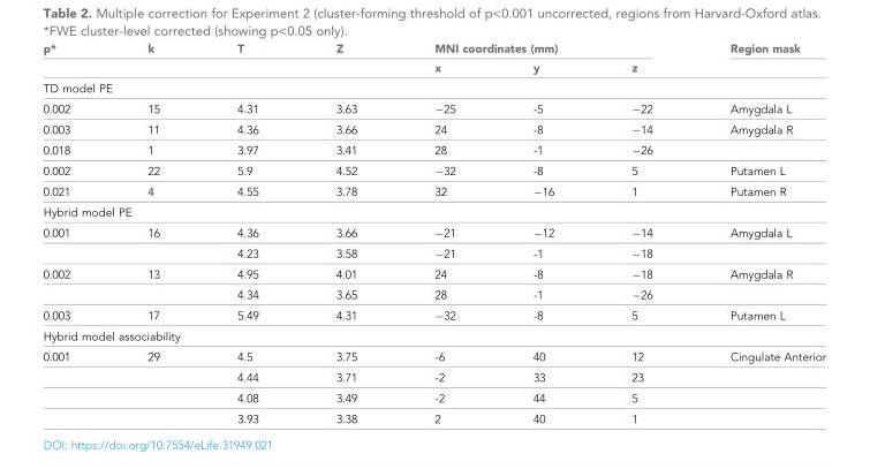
<table><thead><tr><td rowspan="2">p*</td><td rowspan="2">k</td><td rowspan="2">T</td><td rowspan="2">Z</td><td colspan="3">MNI coordinates (mm)</td><td rowspan="2">Region mask</td></tr><tr><td>x</td><td>y</td><td>z</td></tr></thead><tbody><tr><td colspan="8">TD model PE</td></tr><tr><td>0.002</td><td>15</td><td>4.31</td><td>3.63</td><td>−25</td><td>-5</td><td>−22</td><td>Amygdala L</td></tr><tr><td>0.003</td><td>11</td><td>4.36</td><td>3.66</td><td>24</td><td>-8</td><td>−14</td><td>Amygdala R</td></tr><tr><td>0.018</td><td>1</td><td>3.97</td><td>3.41</td><td>28</td><td>-1</td><td>−26</td><td></td></tr><tr><td>0.002</td><td>22</td><td>5.9</td><td>4.52</td><td>−32</td><td>-8</td><td>5</td><td>Putamen L</td></tr><tr><td>0.021</td><td>4</td><td>4.55</td><td>3.78</td><td>32</td><td>−16</td><td>1</td><td>Putamen R</td></tr><tr><td colspan="8">Hybrid model PE</td></tr><tr><td rowspan="2">0.001</td><td>16</td><td>4.36</td><td>3.66</td><td>−21</td><td>−12</td><td>−14</td><td>Amygdala L</td></tr><tr><td></td><td>4.23</td><td>3.58</td><td>−21</td><td>-1</td><td>−18</td><td></td></tr><tr><td rowspan="2">0.002</td><td>13</td><td>4.95</td><td>4.01</td><td>24</td><td>-8</td><td>−18</td><td>Amygdala R</td></tr><tr><td></td><td>4.34</td><td>3.65</td><td>28</td><td>-1</td><td>−26</td><td></td></tr><tr><td>0.003</td><td>17</td><td>5.49</td><td>4.31</td><td>−32</td><td>-8</td><td>5</td><td>Putamen L</td></tr><tr><td colspan="8">Hybrid model associability</td></tr><tr><td rowspan="4">0.001</td><td>29</td><td>4.5</td><td>3.75</td><td>-6</td><td>40</td><td>12</td><td>Cingulate Anterior</td></tr><tr><td></td><td>4.44</td><td>3.71</td><td>-2</td><td>33</td><td>23</td><td></td></tr><tr><td></td><td>4.08</td><td>3.49</td><td>-2</td><td>44</td><td>5</td><td></td></tr><tr><td></td><td>3.93</td><td>3.38</td><td>2</td><td>40</td><td>1</td><td></td></tr></tbody></table>